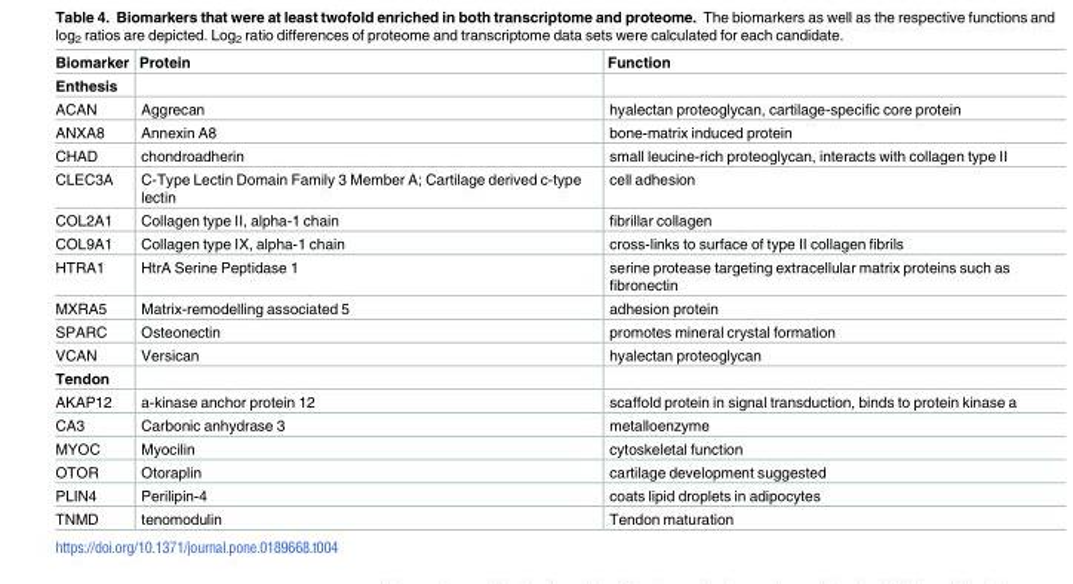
<table><thead><tr><td>Biomarker</td><td>Protein</td><td>Function</td></tr></thead><tbody><tr><td colspan="3">Enthesis</td></tr><tr><td>ACAN</td><td>Aggrecan</td><td>hyalectan proteoglycan, cartilage-specific core protein</td></tr><tr><td>ANXA8</td><td>Annexin A8</td><td>bone-matrix induced protein</td></tr><tr><td>CHAD</td><td>chondroadherin</td><td>small leucine-rich proteoglycan, interacts with collagen type II</td></tr><tr><td>CLEC3A</td><td>C-Type Lectin Domain Family 3 Member A; Cartilage derived c-type lectin</td><td>cell adhesion</td></tr><tr><td>COL2A1</td><td>Collagen type II, alpha-1 chain</td><td>fibrillar collagen</td></tr><tr><td>COL9A1</td><td>Collagen type IX, alpha-1 chain</td><td>cross-links to surface of type II collagen fibrils</td></tr><tr><td>HTRA1</td><td>HtrA Serine Peptidase 1</td><td>serine protease targeting extracellular matrix proteins such as fibronectin</td></tr><tr><td>MXRA5</td><td>Matrix-remodelling associated 5</td><td>adhesion protein</td></tr><tr><td>SPARC</td><td>Osteonectin</td><td>promotes mineral crystal formation</td></tr><tr><td>VCAN</td><td>Versican</td><td>hyalectan proteoglycan</td></tr><tr><td colspan="3">Tendon</td></tr><tr><td>AKAP12</td><td>a-kinase anchor protein 12</td><td>scaffold protein in signal transduction, binds to protein kinase a</td></tr><tr><td>CA3</td><td>Carbonic anhydrase 3</td><td>metalloenzyme</td></tr><tr><td>MYOC</td><td>Myocilin</td><td>cytoskeletal function</td></tr><tr><td>OTOR</td><td>Otoraplin</td><td>cartilage development suggested</td></tr><tr><td>PLIN4</td><td>Perilipin-4</td><td>coats lipid droplets in adipocytes</td></tr><tr><td>TNMD</td><td>tenomodulin</td><td>Tendon maturation</td></tr></tbody></table>